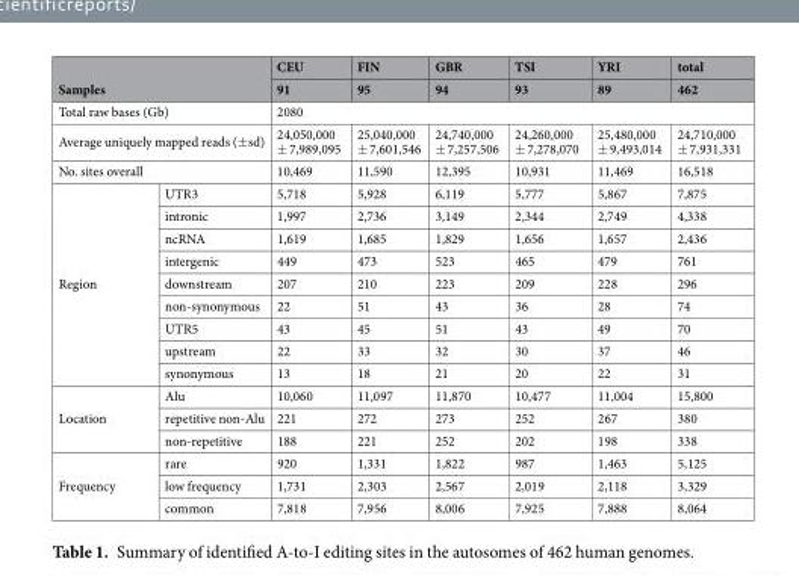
<table><thead><tr><td rowspan="2" colspan="2">Samples</td><td rowspan="2">CEU 91</td><td rowspan="2">FIN 95</td><td rowspan="2">GBR 94</td><td rowspan="2">TSI 93</td><td rowspan="2">YRI 89</td><td rowspan="2">total 462</td></tr><tr></tr></thead><tbody><tr><td colspan="2">Total raw bases (Gb)</td><td colspan="6">2080</td></tr><tr><td colspan="2">Average uniquely mapped reads (±sd)</td><td>24,050,000 ± 7,989,095</td><td>25,040,000 ± 7,601,546</td><td>24,740,000 ± 7,257,506</td><td>24,260,000 ± 7,278,070</td><td>25,480,000 ± 9,493,014</td><td>24,710,000 ± 7,931,331</td></tr><tr><td colspan="2">No. sites overall</td><td>10,469</td><td>11,590</td><td>12,395</td><td>10,931</td><td>11,469</td><td>16,518</td></tr><tr><td rowspan="9">Region</td><td>UTR3</td><td>5,718</td><td>5,928</td><td>6,119</td><td>5,777</td><td>5,867</td><td>7,875</td></tr><tr><td>intronic</td><td>1,997</td><td>2,736</td><td>3,149</td><td>2,344</td><td>2,749</td><td>4,338</td></tr><tr><td>ncRNA</td><td>1,619</td><td>1,685</td><td>1,829</td><td>1,656</td><td>1,657</td><td>2,436</td></tr><tr><td>intergenic</td><td>449</td><td>473</td><td>523</td><td>465</td><td>479</td><td>761</td></tr><tr><td>downstream</td><td>207</td><td>210</td><td>223</td><td>209</td><td>228</td><td>296</td></tr><tr><td>non-synonymous</td><td>22</td><td>51</td><td>43</td><td>36</td><td>28</td><td>74</td></tr><tr><td>UTR5</td><td>43</td><td>45</td><td>51</td><td>43</td><td>49</td><td>70</td></tr><tr><td>upstream</td><td>22</td><td>33</td><td>32</td><td>30</td><td>37</td><td>46</td></tr><tr><td>synonymous</td><td>13</td><td>18</td><td>21</td><td>20</td><td>22</td><td>31</td></tr><tr><td rowspan="3">Location</td><td>Alu</td><td>10,060</td><td>11,097</td><td>11,870</td><td>10,477</td><td>11,004</td><td>15,800</td></tr><tr><td>repetitive non-Alu</td><td>221</td><td>272</td><td>273</td><td>252</td><td>267</td><td>380</td></tr><tr><td>non-repetitive</td><td>188</td><td>221</td><td>252</td><td>202</td><td>198</td><td>338</td></tr><tr><td rowspan="3">Frequency</td><td>rare</td><td>920</td><td>1,331</td><td>1,822</td><td>987</td><td>1,463</td><td>5,125</td></tr><tr><td>low frequency</td><td>1,731</td><td>2,303</td><td>2,567</td><td>2,019</td><td>2,118</td><td>3,329</td></tr><tr><td>common</td><td>7,818</td><td>7,956</td><td>8,006</td><td>7,925</td><td>7,888</td><td>8,064</td></tr></tbody></table>